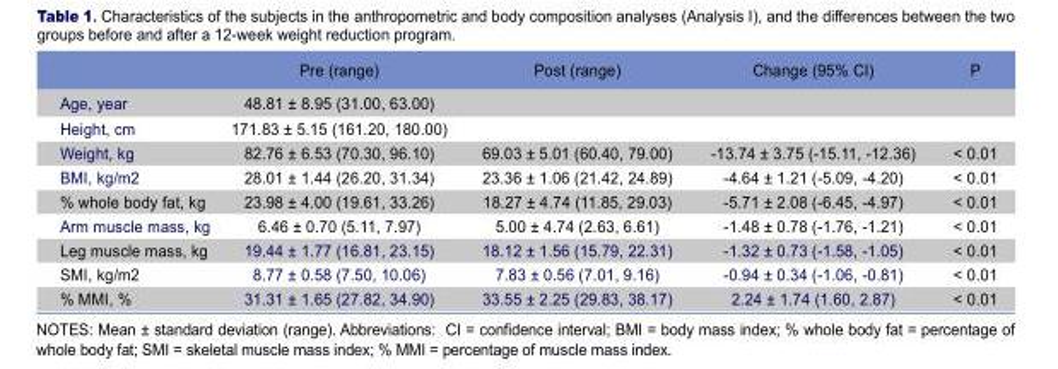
<table><thead><tr><td></td><td>Pre (range)</td><td>Post (range)</td><td>Change (95% CI)</td><td>P</td></tr></thead><tbody><tr><td>Age, year</td><td>48.81 ± 8.95 (31.00, 63.00)</td><td></td><td></td><td></td></tr><tr><td>Height, cm</td><td>171.83 ± 5.15 (161.20, 180.00)</td><td></td><td></td><td></td></tr><tr><td>Weight, kg</td><td>82.76 ± 6.53 (70.30, 96.10)</td><td>69.03 ± 5.01 (60.40, 79.00)</td><td>-13.74 ± 3.75 (-15.11, -12.36)</td><td>&lt; 0.01</td></tr><tr><td>BMI, kg/m<sup>2</sup></td><td>28.01 ± 1.44 (26.20, 31.34)</td><td>23.36 ± 1.06 (21.42, 24.89)</td><td>-4.64 ± 1.21 (-5.09, -4.20)</td><td>&lt; 0.01</td></tr><tr><td>% whole body fat, kg</td><td>23.98 ± 4.00 (19.61, 33.26)</td><td>18.27 ± 4.74 (11.85, 29.03)</td><td>-5.71 ± 2.08 (-6.45, -4.97)</td><td>&lt; 0.01</td></tr><tr><td>Arm muscle mass, kg</td><td>6.46 ± 0.70 (5.11, 7.97)</td><td>5.00 ± 4.74 (2.63, 6.61)</td><td>-1.48 ± 0.78 (-1.76, -1.21)</td><td>&lt; 0.01</td></tr><tr><td>Leg muscle mass, kg</td><td>19.44 ± 1.77 (16.81, 23.15)</td><td>18.12 ± 1.56 (15.79, 22.31)</td><td>-1.32 ± 0.73 (-1.58, -1.05)</td><td>&lt; 0.01</td></tr><tr><td>SMI, kg/m<sup>2</sup></td><td>8.77 ± 0.58 (7.50, 10.06)</td><td>7.83 ± 0.56 (7.01, 9.16)</td><td>-0.94 ± 0.34 (-1.06, -0.81)</td><td>&lt; 0.01</td></tr><tr><td>% MMI, %</td><td>31.31 ± 1.65 (27.82, 34.90)</td><td>33.55 ± 2.25 (29.83, 38.17)</td><td>2.24 ± 1.74 (1.60, 2.87)</td><td>&lt; 0.01</td></tr></tbody></table>